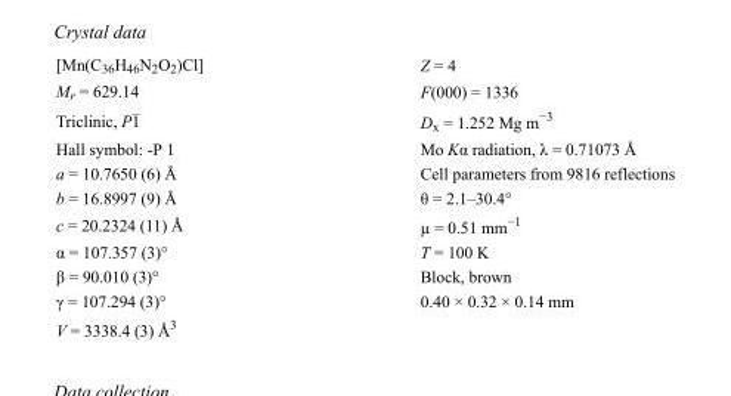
<table><tbody><tr><td>[Mn(C<sub>36</sub>H<sub>46</sub>N<sub>2</sub>O<sub>2</sub>)Cl]</td><td>Z = 4</td></tr><tr><td>M<sub>r</sub> = 629.14</td><td>F(000) = 1336</td></tr><tr><td>Triclinic, P1</td><td>D<sub>x</sub> = 1.252 Mg m<sup>−3</sup></td></tr><tr><td>Hall symbol: -P 1</td><td>Mo Kα radiation, λ = 0.71073 Å</td></tr><tr><td>a = 10.7650 (6) Å</td><td>Cell parameters from 9816 reflections</td></tr><tr><td>b = 16.8997 (9) Å</td><td>θ = 2.1–30.4°</td></tr><tr><td>c = 20.2324 (11) Å</td><td>µ = 0.51 mm<sup>−1</sup></td></tr><tr><td>α = 107.357 (3)°</td><td>T = 100 K</td></tr><tr><td>β = 90.010 (3)°</td><td>Block, brown</td></tr><tr><td>γ = 107.294 (3)°</td><td>0.40 × 0.32 × 0.14 mm</td></tr><tr><td>V = 3338.4 (3) Å<sup>3</sup></td><td></td></tr></tbody></table>